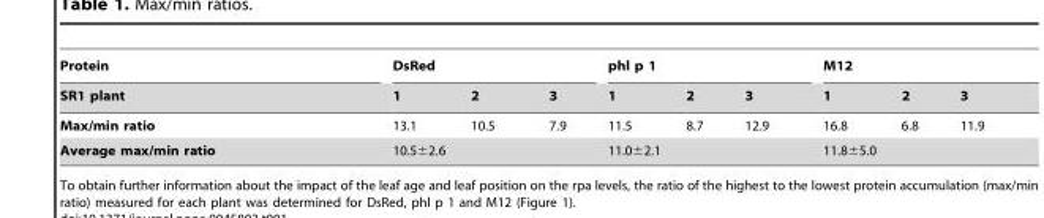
<table><thead><tr><td rowspan="2">Protein SR1 plant</td><td colspan="3">DsRed</td><td colspan="3">phl p 1</td><td colspan="3">M12</td></tr><tr><td>1</td><td>2</td><td>3</td><td>1</td><td>2</td><td>3</td><td>1</td><td>2</td><td>3</td></tr></thead><tbody><tr><td>Max/min ratio</td><td>13.1</td><td>10.5</td><td>7.9</td><td>11.5</td><td>8.7</td><td>12.9</td><td>16.8</td><td>6.8</td><td>11.9</td></tr><tr><td>Average max/min ratio</td><td colspan="3">10.5±2.6</td><td colspan="3">11.0±2.1</td><td colspan="3">11.8±5.0</td></tr></tbody></table>